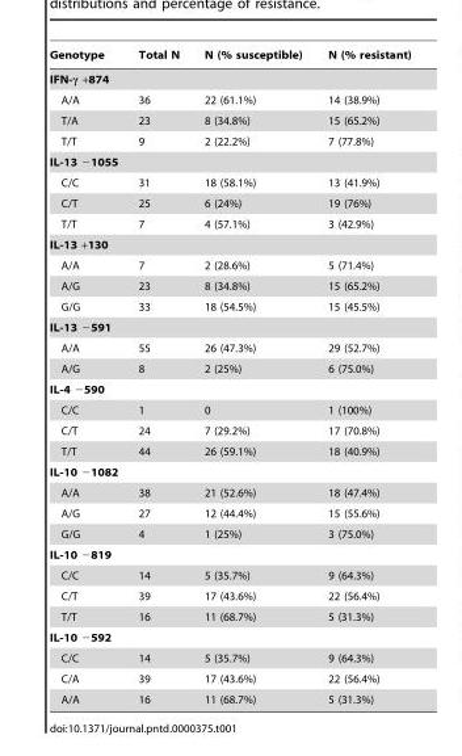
<table><thead><tr><td>Genotype</td><td>Total N</td><td>N (% susceptible)</td><td>N (% resistant)</td></tr></thead><tbody><tr><td colspan="4">IFN-γ +874</td></tr><tr><td>A/A</td><td>36</td><td>22 (61.1%)</td><td>14 (38.9%)</td></tr><tr><td>T/A</td><td>23</td><td>8 (34.8%)</td><td>15 (65.2%)</td></tr><tr><td>T/T</td><td>9</td><td>2 (22.2%)</td><td>7 (77.8%)</td></tr><tr><td colspan="4">IL-13 −1055</td></tr><tr><td>C/C</td><td>31</td><td>18 (58.1%)</td><td>13 (41.9%)</td></tr><tr><td>C/T</td><td>25</td><td>6 (24%)</td><td>19 (76%)</td></tr><tr><td>T/T</td><td>7</td><td>4 (57.1%)</td><td>3 (42.9%)</td></tr><tr><td colspan="4">IL-13 +130</td></tr><tr><td>A/A</td><td>7</td><td>2 (28.6%)</td><td>5 (71.4%)</td></tr><tr><td>A/G</td><td>23</td><td>8 (34.8%)</td><td>15 (65.2%)</td></tr><tr><td>G/G</td><td>33</td><td>18 (54.5%)</td><td>15 (45.5%)</td></tr><tr><td colspan="4">IL-13 −591</td></tr><tr><td>A/A</td><td>55</td><td>26 (47.3%)</td><td>29 (52.7%)</td></tr><tr><td>A/G</td><td>8</td><td>2 (25%)</td><td>6 (75.0%)</td></tr><tr><td colspan="4">IL-4 −590</td></tr><tr><td>C/C</td><td>1</td><td>0</td><td>1 (100%)</td></tr><tr><td>C/T</td><td>24</td><td>7 (29.2%)</td><td>17 (70.8%)</td></tr><tr><td>T/T</td><td>44</td><td>26 (59.1%)</td><td>18 (40.9%)</td></tr><tr><td colspan="4">IL-10 −1082</td></tr><tr><td>A/A</td><td>38</td><td>21 (52.6%)</td><td>18 (47.4%)</td></tr><tr><td>A/G</td><td>27</td><td>12 (44.4%)</td><td>15 (55.6%)</td></tr><tr><td>G/G</td><td>4</td><td>1 (25%)</td><td>3 (75.0%)</td></tr><tr><td colspan="4">IL-10 −819</td></tr><tr><td>C/C</td><td>14</td><td>5 (35.7%)</td><td>9 (64.3%)</td></tr><tr><td>C/T</td><td>39</td><td>17 (43.6%)</td><td>22 (56.4%)</td></tr><tr><td>T/T</td><td>16</td><td>11 (68.7%)</td><td>5 (31.3%)</td></tr><tr><td colspan="4">IL-10 −592</td></tr><tr><td>C/C</td><td>14</td><td>5 (35.7%)</td><td>9 (64.3%)</td></tr><tr><td>C/A</td><td>39</td><td>17 (43.6%)</td><td>22 (56.4%)</td></tr><tr><td>A/A</td><td>16</td><td>11 (68.7%)</td><td>5 (31.3%)</td></tr></tbody></table>